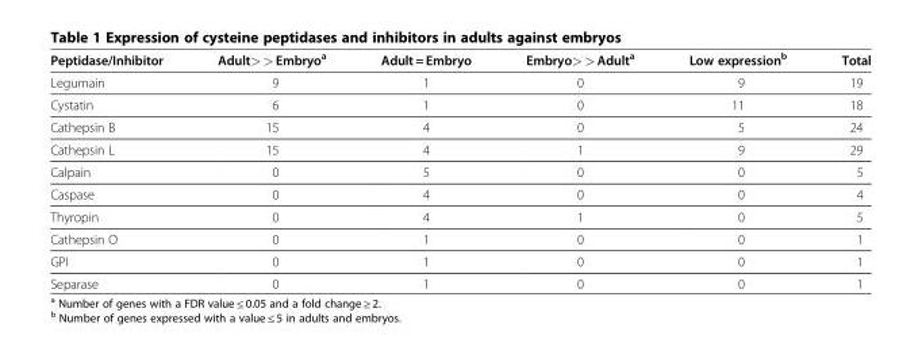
<table><thead><tr><td>Peptidase/Inhibitor</td><td>Adult&gt; &gt; Embryo<sup>a</sup></td><td>Adult = Embryo</td><td>Embryo&gt; &gt; Adult<sup>a</sup></td><td>Low expression<sup>b</sup></td><td>Total</td></tr></thead><tbody><tr><td>Legumain</td><td>9</td><td>1</td><td>0</td><td>9</td><td>19</td></tr><tr><td>Cystatin</td><td>6</td><td>1</td><td>0</td><td>11</td><td>18</td></tr><tr><td>Cathepsin B</td><td>15</td><td>4</td><td>0</td><td>5</td><td>24</td></tr><tr><td>Cathepsin L</td><td>15</td><td>4</td><td>1</td><td>9</td><td>29</td></tr><tr><td>Calpain</td><td>0</td><td>5</td><td>0</td><td>0</td><td>5</td></tr><tr><td>Caspase</td><td>0</td><td>4</td><td>0</td><td>0</td><td>4</td></tr><tr><td>Thyropin</td><td>0</td><td>4</td><td>1</td><td>0</td><td>5</td></tr><tr><td>Cathepsin O</td><td>0</td><td>1</td><td>0</td><td>0</td><td>1</td></tr><tr><td>GPI</td><td>0</td><td>1</td><td>0</td><td>0</td><td>1</td></tr><tr><td>Separase</td><td>0</td><td>1</td><td>0</td><td>0</td><td>1</td></tr></tbody></table>